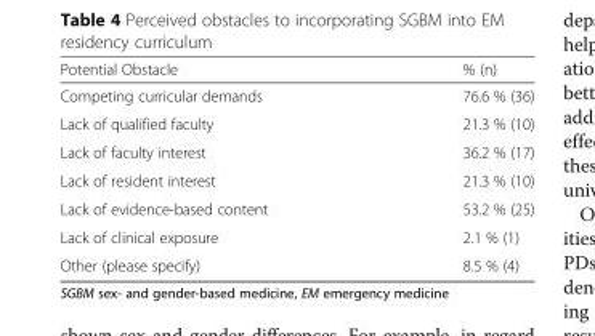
<table><thead><tr><td>Potential Obstacle</td><td>% (n)</td></tr></thead><tbody><tr><td>Competing curricular demands</td><td>76.6 % (36)</td></tr><tr><td>Lack of qualified faculty</td><td>21.3 % (10)</td></tr><tr><td>Lack of faculty interest</td><td>36.2 % (17)</td></tr><tr><td>Lack of resident interest</td><td>21.3 % (10)</td></tr><tr><td>Lack of evidence-based content</td><td>53.2 % (25)</td></tr><tr><td>Lack of clinical exposure</td><td>2.1 % (1)</td></tr><tr><td>Other (please specify)</td><td>8.5 % (4)</td></tr></tbody></table>